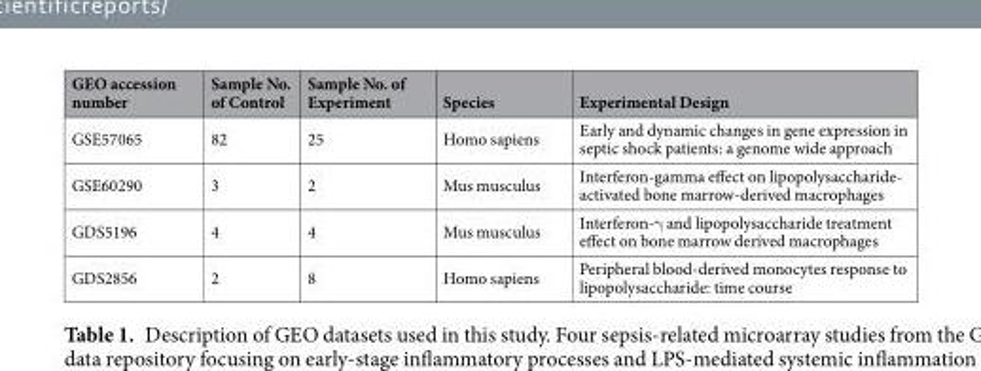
<table><thead><tr><td>GEO accession number</td><td>Sample No. of Control</td><td>Sample No. of Experiment</td><td>Species</td><td>Experimental Design</td></tr></thead><tbody><tr><td>GSE57065</td><td>82</td><td>25</td><td>Homo sapiens</td><td>Early and dynamic changes in gene expression in septic shock patients: a genome wide approach</td></tr><tr><td>GSE60290</td><td>3</td><td>2</td><td>Mus musculus</td><td>Interferon-gamma effect on lipopolysaccharide- activated bone marrow-derived macrophages</td></tr><tr><td>GDS5196</td><td>4</td><td>4</td><td>Mus musculus</td><td>Interferon-γ and lipopolysaccharide treatment effect on bone marrow derived macrophages</td></tr><tr><td>GDS2856</td><td>2</td><td>8</td><td>Homo sapiens</td><td>Peripheral blood-derived monocytes response to lipopolysaccharide: time course</td></tr></tbody></table>